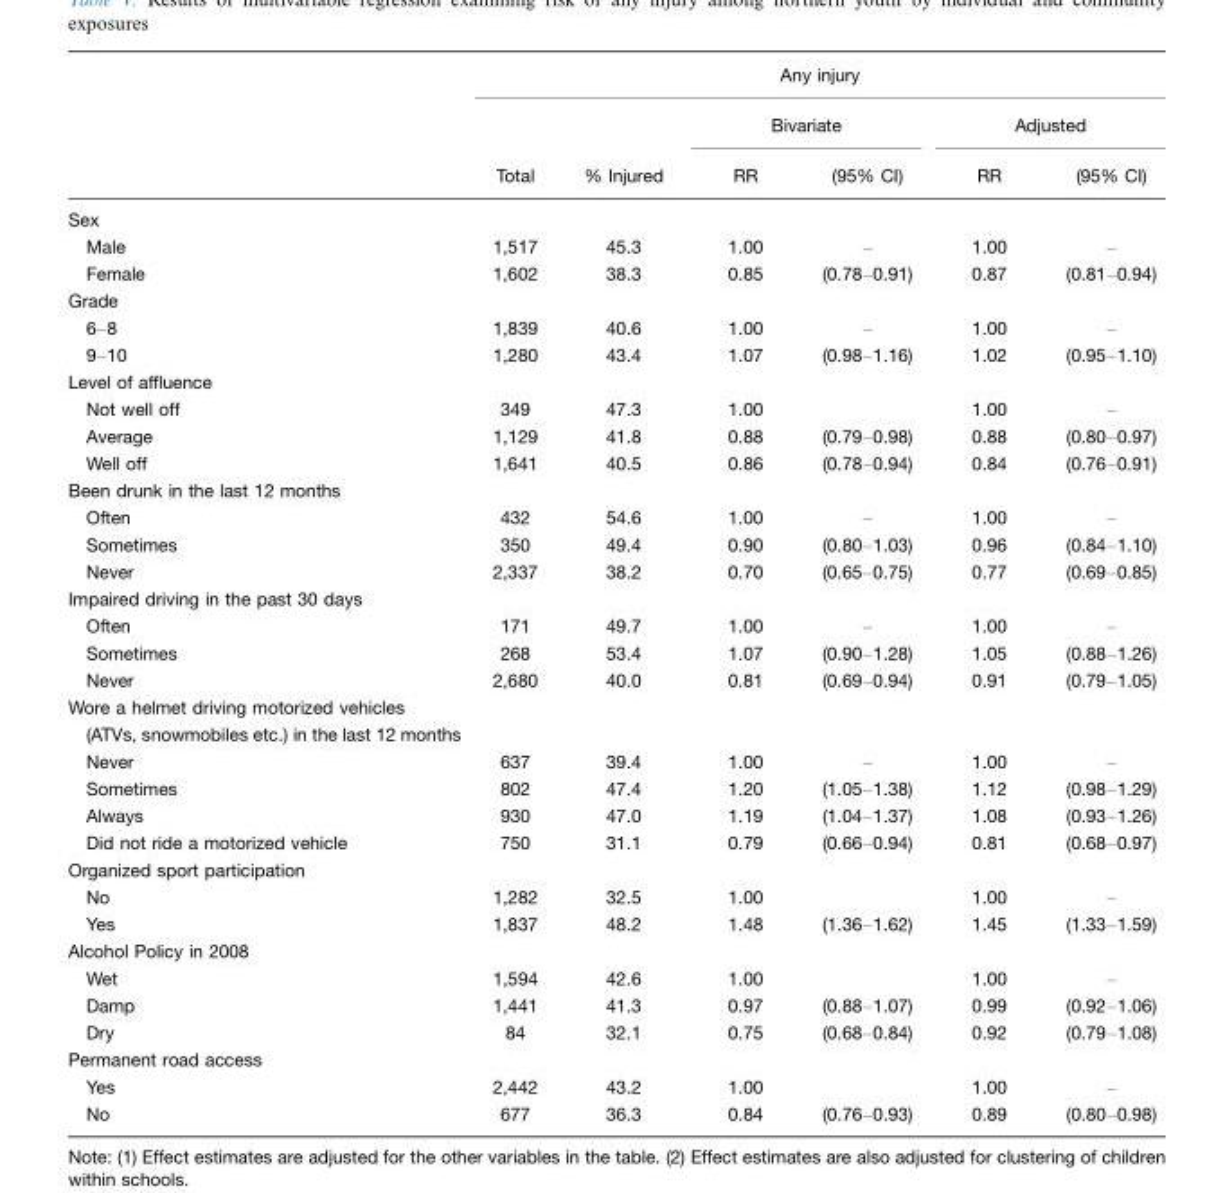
<table><thead><tr><td rowspan="3"></td><td colspan="6">Any injury</td></tr><tr><td rowspan="2">Total</td><td rowspan="2">% Injured</td><td colspan="2">Bivariate</td><td colspan="2">Adjusted</td></tr><tr><td>RR</td><td>(95% CI)</td><td>RR</td><td>(95% CI)</td></tr></thead><tbody><tr><td>Sex Male Female</td><td>1,517 1,602</td><td>45.3 38.3</td><td>1.00 0.85</td><td>– (0.78–0.91)</td><td>1.00 0.87</td><td>– (0.81–0.94)</td></tr><tr><td>Grade 6–8 9–10</td><td>1,839 1,280</td><td>40.6 43.4</td><td>1.00 1.07</td><td>– (0.98–1.16)</td><td>1.00 1.02</td><td>– (0.95–1.10)</td></tr><tr><td>Level of affluence Not well off Average Well off</td><td>349 1,129 1,641</td><td>47.3 41.8 40.5</td><td>1.00 0.88 0.86</td><td>(0.79–0.98) (0.78–0.94)</td><td>1.00 0.88 0.84</td><td>– (0.80–0.97) (0.76–0.91)</td></tr><tr><td>Been drunk in the last 12 months Often Sometimes Never</td><td>432 350 2,337</td><td>54.6 49.4 38.2</td><td>1.00 0.90 0.70</td><td>– (0.80–1.03) (0.65–0.75)</td><td>1.00 0.96 0.77</td><td>– (0.84–1.10) (0.69–0.85)</td></tr><tr><td>Impaired driving in the past 30 days Often Sometimes Never</td><td>171 268 2,680</td><td>49.7 53.4 40.0</td><td>1.00 1.07 0.81</td><td>– (0.90–1.28) (0.69–0.94)</td><td>1.00 1.05 0.91</td><td>– (0.88–1.26) (0.79–1.05)</td></tr><tr><td>Wore a helmet driving motorized vehicles (ATVs, snowmobiles etc.) in the last 12 months Never Sometimes Always Did not ride a motorized vehicle</td><td>637 802 930 750</td><td>39.4 47.4 47.0 31.1</td><td>1.00 1.20 1.19 0.79</td><td>– (1.05–1.38) (1.04–1.37) (0.66–0.94)</td><td>1.00 1.12 1.08 0.81</td><td>– (0.98–1.29) (0.93–1.26) (0.68–0.97)</td></tr><tr><td>Organized sport participation No Yes</td><td>1,282 1,837</td><td>32.5 48.2</td><td>1.00 1.48</td><td>(1.36–1.62)</td><td>1.00 1.45</td><td>– (1.33–1.59)</td></tr><tr><td>Alcohol Policy in 2008 Wet Damp Dry</td><td>1,594 1,441 84</td><td>42.6 41.3 32.1</td><td>1.00 0.97 0.75</td><td>(0.88–1.07) (0.68–0.84)</td><td>1.00 0.99 0.92</td><td>– (0.92–1.06) (0.79–1.08)</td></tr><tr><td>Permanent road access Yes No</td><td>2,442 677</td><td>43.2 36.3</td><td>1.00 0.84</td><td>(0.76–0.93)</td><td>1.00 0.89</td><td>– (0.80–0.98)</td></tr></tbody></table>